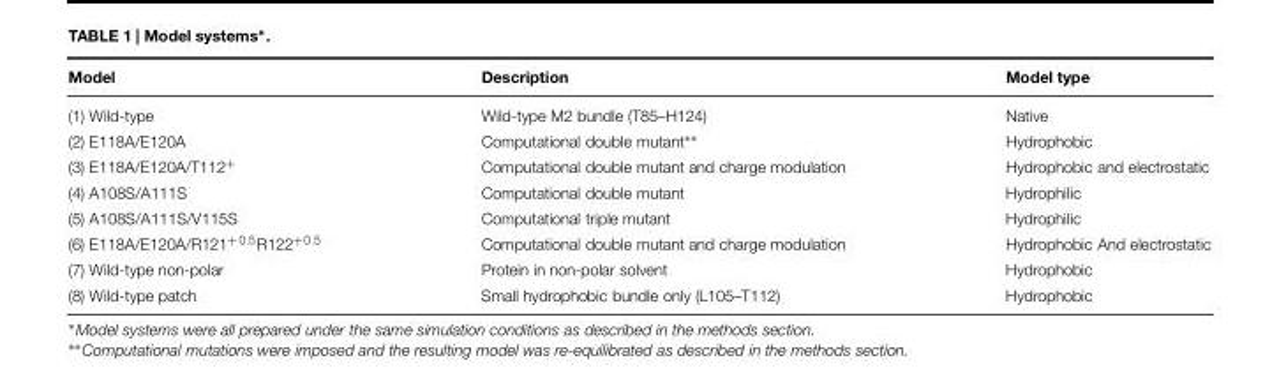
<table><thead><tr><td>Model</td><td>Description</td><td>Model type</td></tr></thead><tbody><tr><td>(1) Wild-type</td><td>Wild-type M2 bundle (T85–H124)</td><td>Native</td></tr><tr><td>(2) E118A/E120A</td><td>Computational double mutant∗∗</td><td>Hydrophobic</td></tr><tr><td>(3) E118A/E120A/T112<sup>+</sup></td><td>Computational double mutant and charge modulation</td><td>Hydrophobic and electrostatic</td></tr><tr><td>(4) A108S/A111S</td><td>Computational double mutant</td><td>Hydrophilic</td></tr><tr><td>(5) A108S/A111S/V115S</td><td>Computational triple mutant</td><td>Hydrophilic</td></tr><tr><td>(6) E118A/E120A/R121<sup>+ 0.5</sup>R122<sup>+0.5</sup></td><td>Computational double mutant and charge modulation</td><td>Hydrophobic And electrostatic</td></tr><tr><td>(7) Wild-type non-polar</td><td>Protein in non-polar solvent</td><td>Hydrophobic</td></tr><tr><td>(8) Wild-type patch</td><td>Small hydrophobic bundle only (L105–T112)</td><td>Hydrophobic</td></tr></tbody></table>